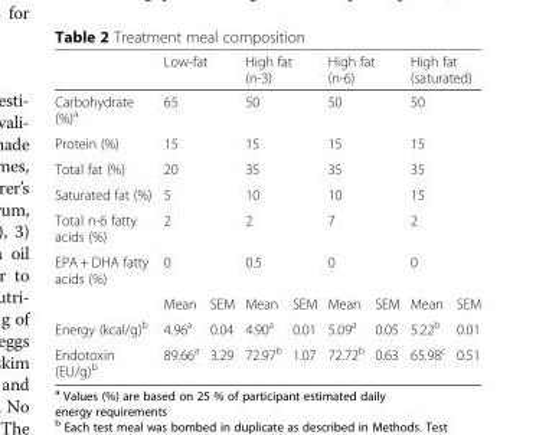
<table><thead><tr><td></td><td colspan="2">Low-fat</td><td colspan="2">High fat (n-3)</td><td colspan="2">High fat (n-6)</td><td colspan="2">High fat (saturated)</td></tr></thead><tbody><tr><td>Carbohydrate (%)<sup>a</sup></td><td colspan="2">65</td><td colspan="2">50</td><td colspan="2">50</td><td colspan="2">50</td></tr><tr><td>Protein (%)</td><td colspan="2">15</td><td colspan="2">15</td><td colspan="2">15</td><td colspan="2">15</td></tr><tr><td>Total fat (%)</td><td colspan="2">20</td><td colspan="2">35</td><td colspan="2">35</td><td colspan="2">35</td></tr><tr><td>Saturated fat (%)</td><td colspan="2">5</td><td colspan="2">10</td><td colspan="2">10</td><td colspan="2">15</td></tr><tr><td>Total n-6 fatty acids (%)</td><td colspan="2">2</td><td colspan="2">2</td><td colspan="2">7</td><td colspan="2">2</td></tr><tr><td rowspan="2">EPA + DHA fatty acids (%)</td><td colspan="2">0</td><td colspan="2">0.5</td><td colspan="2">0</td><td colspan="2">0</td></tr><tr><td>Mean</td><td>SEM</td><td>Mean</td><td>SEM</td><td>Mean</td><td>SEM</td><td>Mean</td><td>SEM</td></tr><tr><td>Energy (kcal/g)<sup>b</sup></td><td>4.96<sup>a</sup></td><td>0.04</td><td>4.90<sup>a</sup></td><td>0.01</td><td>5.09<sup>a</sup></td><td>0.05</td><td>5.22<sup>b</sup></td><td>0.01</td></tr><tr><td>Endotoxin (EU/g)<sup>b</sup></td><td>89.66<sup>a</sup></td><td>3.29</td><td>72.97<sup>b</sup></td><td>1.07</td><td>72.72<sup>b</sup></td><td>0.63</td><td>65.98<sup>c</sup></td><td>0.51</td></tr></tbody></table>